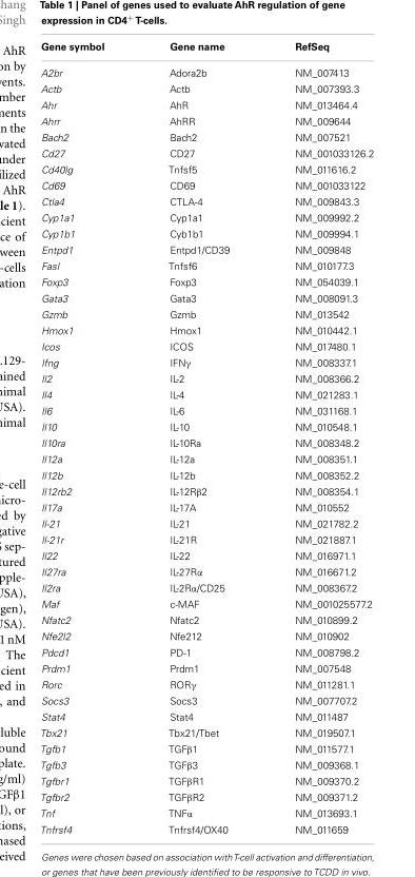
<table><thead><tr><td>Gene symbol</td><td>Gene name</td><td>RefSeq</td></tr></thead><tbody><tr><td>A2br</td><td>Adora2b</td><td>NM_007413</td></tr><tr><td>Actb</td><td>Actb</td><td>NM_007393.3</td></tr><tr><td>Ahr</td><td>AhR</td><td>NM_013464.4</td></tr><tr><td>Ahrr</td><td>AhRR</td><td>NM_009644</td></tr><tr><td>Bach2</td><td>Bach2</td><td>NM_007521</td></tr><tr><td>Cd27</td><td>CD27</td><td>NM_001033126.2</td></tr><tr><td>Cd40lg</td><td>Tnfsf5</td><td>NM_011616.2</td></tr><tr><td>Cd69</td><td>CD69</td><td>NM_001033122</td></tr><tr><td>Ctla4</td><td>CTLA-4</td><td>NM_009843.3</td></tr><tr><td>Cyp1a1</td><td>Cyp1a1</td><td>NM_009992.2</td></tr><tr><td>Cyp1b1</td><td>Cyb1b1</td><td>NM_009994.1</td></tr><tr><td>Entpd1</td><td>Entpd1/CD39</td><td>NM_009848</td></tr><tr><td>Fasl</td><td>Tnfsf6</td><td>NM_010177.3</td></tr><tr><td>Foxp3</td><td>Foxp3</td><td>NM_054039.1</td></tr><tr><td>Gata3</td><td>Gata3</td><td>NM_008091.3</td></tr><tr><td>Gzmb</td><td>Gzmb</td><td>NM_013542</td></tr><tr><td>Hmox1</td><td>Hmox1</td><td>NM_010442.1</td></tr><tr><td>Icos</td><td>ICOS</td><td>NM_017480.1</td></tr><tr><td>Ifng</td><td>IFNγ</td><td>NM_008337.1</td></tr><tr><td>Il2</td><td>IL-2</td><td>NM_008366.2</td></tr><tr><td>Il4</td><td>IL-4</td><td>NM_021283.1</td></tr><tr><td>Il6</td><td>IL-6</td><td>NM_031168.1</td></tr><tr><td>Il10</td><td>IL-10</td><td>NM_010548.1</td></tr><tr><td>Il10ra</td><td>IL-10Ra</td><td>NM_008348.2</td></tr><tr><td>Il12a</td><td>IL-12a</td><td>NM_008351.1</td></tr><tr><td>Il12b</td><td>IL-12b</td><td>NM_008352.2</td></tr><tr><td>Il12rb2</td><td>IL-12Rβ2</td><td>NM_008354.1</td></tr><tr><td>Il17a</td><td>IL-17A</td><td>NM_010552</td></tr><tr><td>Il-21</td><td>IL-21</td><td>NM_021782.2</td></tr><tr><td>Il-21r</td><td>IL-21R</td><td>NM_021887.1</td></tr><tr><td>Il22</td><td>IL-22</td><td>NM_016971.1</td></tr><tr><td>Il27ra</td><td>IL-27Rα</td><td>NM_016671.2</td></tr><tr><td>Il2ra</td><td>IL-2Rα/CD25</td><td>NM_008367.2</td></tr><tr><td>Maf</td><td>c-MAF</td><td>NM_001025577.2</td></tr><tr><td>Nfatc2</td><td>Nfatc2</td><td>NM_010899.2</td></tr><tr><td>Nfe2l2</td><td>Nfe212</td><td>NM_010902</td></tr><tr><td>Pdcd1</td><td>PD-1</td><td>NM_008798.2</td></tr><tr><td>Prdm1</td><td>Prdm1</td><td>NM_007548</td></tr><tr><td>Rorc</td><td>RORγ</td><td>NM_011281.1</td></tr><tr><td>Socs3</td><td>Socs3</td><td>NM_007707.2</td></tr><tr><td>Stat4</td><td>Stat4</td><td>NM_011487</td></tr><tr><td>Tbx21</td><td>Tbx21/Tbet</td><td>NM_019507.1</td></tr><tr><td>Tgfb1</td><td>TGFβ1</td><td>NM_011577.1</td></tr><tr><td>Tgfb3</td><td>TGFβ3</td><td>NM_009368.1</td></tr><tr><td>Tgfbr1</td><td>TGFβR1</td><td>NM_009370.2</td></tr><tr><td>Tgfbr2</td><td>TGFβR2</td><td>NM_009371.2</td></tr><tr><td>Tnf</td><td>TNFα</td><td>NM_013693.1</td></tr><tr><td>Tnfrsf4</td><td>Tnfrsf4/OX40</td><td>NM_011659</td></tr></tbody></table>